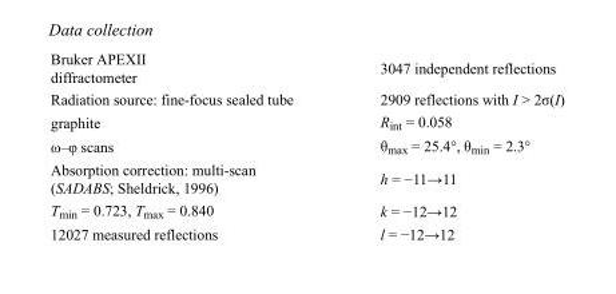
<table><tbody><tr><td>Bruker APEXII diffractometer</td><td>3047 independent reflections</td></tr><tr><td>Radiation source: fine-focus sealed tube</td><td>2909 reflections with I &gt; 2σ(I)</td></tr><tr><td>graphite</td><td>R<sub>int</sub> = 0.058</td></tr><tr><td>ω–φ scans</td><td>θ<sub>max</sub> = 25.4°, θ<sub>min</sub> = 2.3°</td></tr><tr><td>Absorption correction: multi-scan (SADABS; Sheldrick, 1996)</td><td>h = −11→11</td></tr><tr><td>T<sub>min</sub> = 0.723, T<sub>max</sub> = 0.840</td><td>k = −12→12</td></tr><tr><td>12027 measured reflections</td><td>l = −12→12</td></tr></tbody></table>